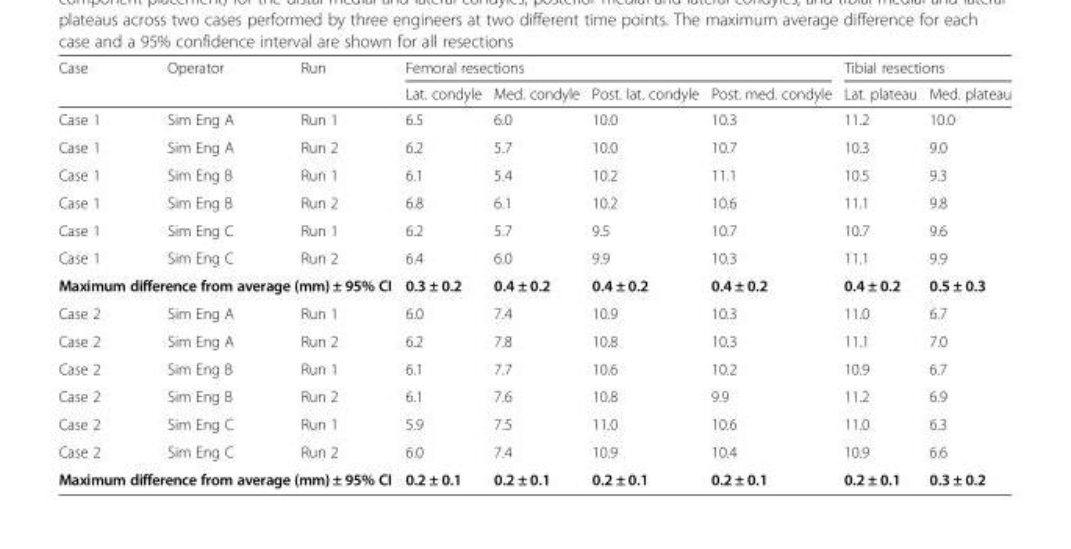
<table><thead><tr><td rowspan="2">Case</td><td rowspan="2">Operator</td><td rowspan="2">Run</td><td colspan="4">Femoral resections</td><td colspan="2">Tibial resections</td></tr><tr><td>Lat. condyle</td><td>Med. condyle</td><td>Post. lat. condyle</td><td>Post. med. condyle</td><td>Lat. plateau</td><td>Med. plateau</td></tr></thead><tbody><tr><td>Case 1</td><td>Sim Eng A</td><td>Run 1</td><td>6.5</td><td>6.0</td><td>10.0</td><td>10.3</td><td>11.2</td><td>10.0</td></tr><tr><td>Case 1</td><td>Sim Eng A</td><td>Run 2</td><td>6.2</td><td>5.7</td><td>10.0</td><td>10.7</td><td>10.3</td><td>9.0</td></tr><tr><td>Case 1</td><td>Sim Eng B</td><td>Run 1</td><td>6.1</td><td>5.4</td><td>10.2</td><td>11.1</td><td>10.5</td><td>9.3</td></tr><tr><td>Case 1</td><td>Sim Eng B</td><td>Run 2</td><td>6.8</td><td>6.1</td><td>10.2</td><td>10.6</td><td>11.1</td><td>9.8</td></tr><tr><td>Case 1</td><td>Sim Eng C</td><td>Run 1</td><td>6.2</td><td>5.7</td><td>9.5</td><td>10.7</td><td>10.7</td><td>9.6</td></tr><tr><td>Case 1</td><td>Sim Eng C</td><td>Run 2</td><td>6.4</td><td>6.0</td><td>9.9</td><td>10.3</td><td>11.1</td><td>9.9</td></tr><tr><td colspan="3">Maximum difference from average (mm) ± 95% CI</td><td>0.3 ± 0.2</td><td>0.4 ± 0.2</td><td>0.4 ± 0.2</td><td>0.4 ± 0.2</td><td>0.4 ± 0.2</td><td>0.5 ± 0.3</td></tr><tr><td>Case 2</td><td>Sim Eng A</td><td>Run 1</td><td>6.0</td><td>7.4</td><td>10.9</td><td>10.3</td><td>11.0</td><td>6.7</td></tr><tr><td>Case 2</td><td>Sim Eng A</td><td>Run 2</td><td>6.2</td><td>7.8</td><td>10.8</td><td>10.3</td><td>11.1</td><td>7.0</td></tr><tr><td>Case 2</td><td>Sim Eng B</td><td>Run 1</td><td>6.1</td><td>7.7</td><td>10.6</td><td>10.2</td><td>10.9</td><td>6.7</td></tr><tr><td>Case 2</td><td>Sim Eng B</td><td>Run 2</td><td>6.1</td><td>7.6</td><td>10.8</td><td>9.9</td><td>11.2</td><td>6.9</td></tr><tr><td>Case 2</td><td>Sim Eng C</td><td>Run 1</td><td>5.9</td><td>7.5</td><td>11.0</td><td>10.6</td><td>11.0</td><td>6.3</td></tr><tr><td>Case 2</td><td>Sim Eng C</td><td>Run 2</td><td>6.0</td><td>7.4</td><td>10.9</td><td>10.4</td><td>10.9</td><td>6.6</td></tr><tr><td colspan="3">Maximum difference from average (mm) ± 95% CI</td><td>0.2 ± 0.1</td><td>0.2 ± 0.1</td><td>0.2 ± 0.1</td><td>0.2 ± 0.1</td><td>0.2 ± 0.1</td><td>0.3 ± 0.2</td></tr></tbody></table>